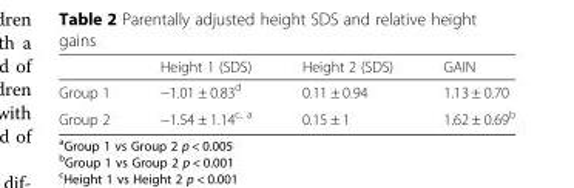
<table><thead><tr><td></td><td>Height 1 (SDS)</td><td>Height 2 (SDS)</td><td>GAIN</td></tr></thead><tbody><tr><td>Group 1</td><td>−1.01 ± 0.83<sup>d</sup></td><td>0.11 ± 0.94</td><td>1.13 ± 0.70</td></tr><tr><td>Group 2</td><td>−1.54 ± 1.14<sup>c, a</sup></td><td>0.15 ± 1</td><td>1.62 ± 0.69<sup>b</sup></td></tr></tbody></table>